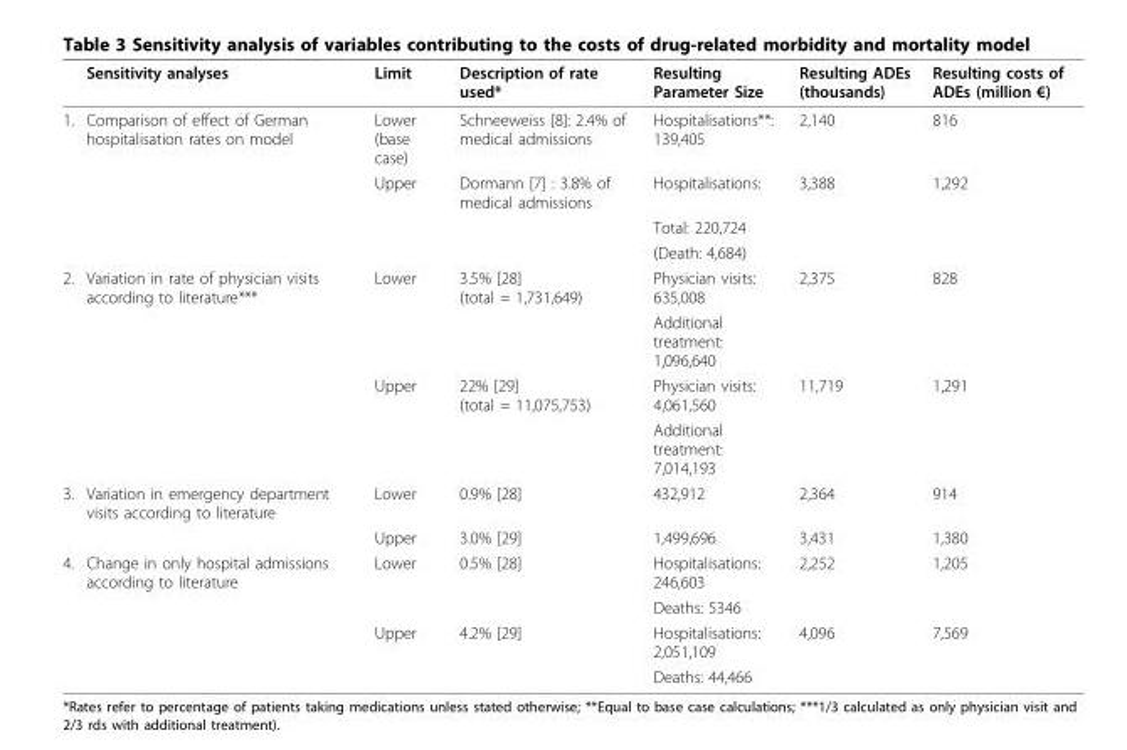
<table><thead><tr><td></td><td>Sensitivity analyses</td><td>Limit</td><td>Description of rate used*</td><td>Resulting Parameter Size</td><td>Resulting ADEs (thousands)</td><td>Resulting costs of ADEs (million €)</td></tr></thead><tbody><tr><td rowspan="4">1.</td><td>Comparison of effect of German hospitalisation rates on model</td><td>Lower (base case)</td><td>Schneeweiss [8]: 2.4% of medical admissions</td><td>Hospitalisations**: 139,405</td><td>2,140</td><td>816</td></tr><tr><td></td><td>Upper</td><td>Dormann [7] : 3.8% of medical admissions</td><td>Hospitalisations:</td><td>3,388</td><td>1,292</td></tr><tr><td></td><td></td><td></td><td>Total: 220,724</td><td></td><td></td></tr><tr><td></td><td></td><td></td><td>(Death: 4,684)</td><td></td><td></td></tr><tr><td rowspan="4">2.</td><td>Variation in rate of physician visits according to literature***</td><td>Lower</td><td>3.5% [28] (total = 1,731,649)</td><td>Physician visits: 635,008</td><td>2,375</td><td>828</td></tr><tr><td></td><td></td><td></td><td>Additional treatment: 1,096,640</td><td></td><td></td></tr><tr><td></td><td>Upper</td><td>22% [29] (total = 11,075,753)</td><td>Physician visits: 4,061,560</td><td>11,719</td><td>1,291</td></tr><tr><td></td><td></td><td></td><td>Additional treatment: 7,014,193</td><td></td><td></td></tr><tr><td rowspan="2">3.</td><td>Variation in emergency department visits according to literature</td><td>Lower</td><td>0.9% [28]</td><td>432,912</td><td>2,364</td><td>914</td></tr><tr><td></td><td>Upper</td><td>3.0% [29]</td><td>1,499,696</td><td>3,431</td><td>1,380</td></tr><tr><td rowspan="4">4.</td><td>Change in only hospital admissions according to literature</td><td>Lower</td><td>0.5% [28]</td><td>Hospitalisations: 246,603</td><td>2,252</td><td>1,205</td></tr><tr><td></td><td></td><td></td><td>Deaths: 5346</td><td></td><td></td></tr><tr><td></td><td>Upper</td><td>4.2% [29]</td><td>Hospitalisations: 2,051,109</td><td>4,096</td><td>7,569</td></tr><tr><td></td><td></td><td></td><td>Deaths: 44,466</td><td></td><td></td></tr></tbody></table>